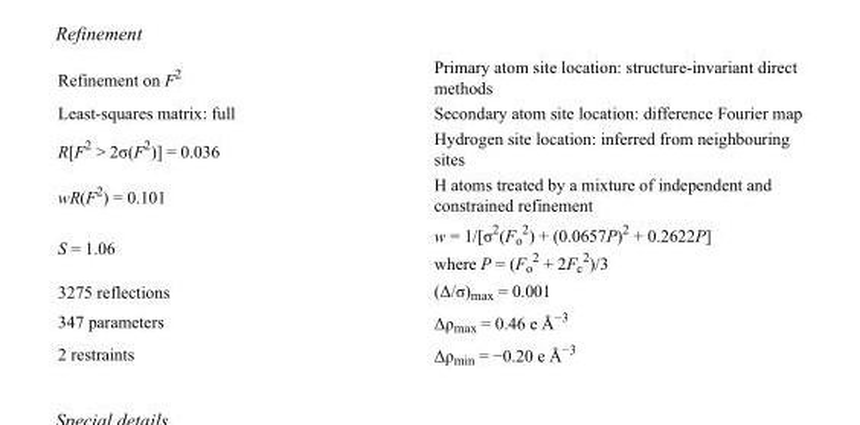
<table><tbody><tr><td>Refinement on F<sup>2</sup></td><td>Primary atom site location: structure-invariant direct methods</td></tr><tr><td>Least-squares matrix: full</td><td>Secondary atom site location: difference Fourier map</td></tr><tr><td>R[F<sup>2</sup> &gt; 2σ(F<sup>2</sup>)] = 0.036</td><td>Hydrogen site location: inferred from neighbouring sites</td></tr><tr><td>wR(F<sup>2</sup>) = 0.101</td><td>H atoms treated by a mixture of independent and constrained refinement</td></tr><tr><td>S = 1.06</td><td>w = 1/[σ<sup>2</sup>(F<sub>o</sub> <sup>2</sup>) + (0.0657P)<sup>2</sup> + 0.2622P] where P = (F<sub>o</sub> <sup>2</sup> + 2F<sub>c</sub> <sup>2</sup>)/3</td></tr><tr><td>3275 reflections</td><td>(Δ/σ)<sub>max</sub> = 0.001</td></tr><tr><td>347 parameters</td><td>Δρ<sub>max</sub> = 0.46 e Å<sup>−3</sup></td></tr><tr><td>2 restraints</td><td>Δρ<sub>min</sub> = −0.20 e Å<sup>−3</sup></td></tr></tbody></table>